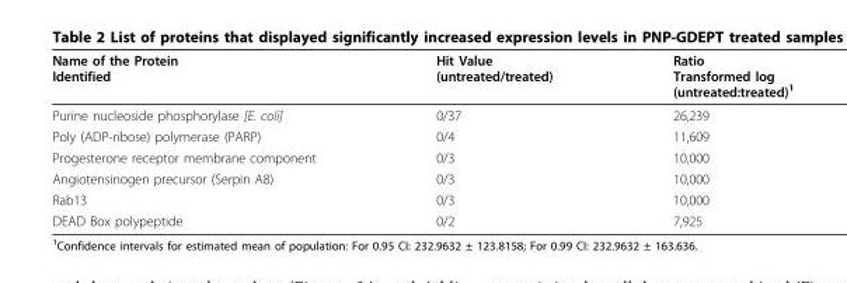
<table><thead><tr><td>Name of the Protein Identified</td><td>Hit Value (untreated/treated)</td><td>Ratio Transformed log (untreated:treated)<sup>1</sup></td></tr></thead><tbody><tr><td>Purine nucleoside phosphorylase [E. coli]</td><td>0/37</td><td>26,239</td></tr><tr><td>Poly (ADP-ribose) polymerase (PARP)</td><td>0/4</td><td>11,609</td></tr><tr><td>Progesterone receptor membrane component</td><td>0/3</td><td>10,000</td></tr><tr><td>Angiotensinogen precursor (Serpin A8)</td><td>0/3</td><td>10,000</td></tr><tr><td>Rab13</td><td>0/3</td><td>10,000</td></tr><tr><td>DEAD Box polypeptide</td><td>0/2</td><td>7,925</td></tr></tbody></table>